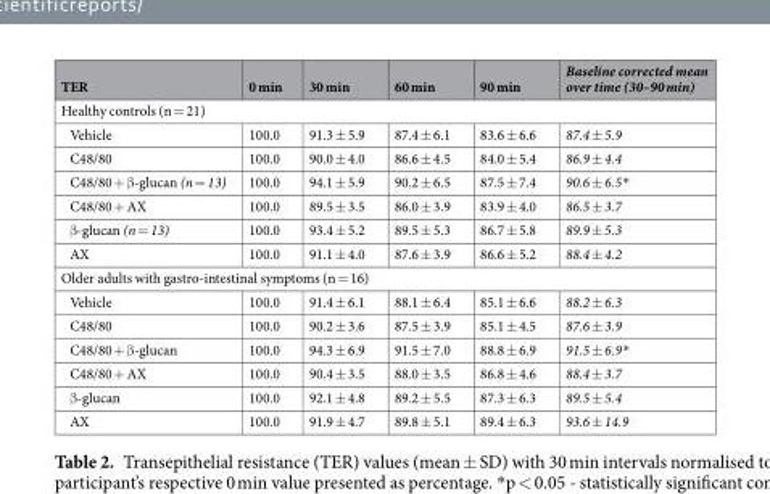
<table><thead><tr><td>TER</td><td>0 min</td><td>30 min</td><td>60 min</td><td>90 min</td><td>Baseline corrected mean over time (30–90 min)</td></tr></thead><tbody><tr><td colspan="6">Healthy controls (n = 21)</td></tr><tr><td>Vehicle</td><td>100.0</td><td>91.3 ± 5.9</td><td>87.4 ± 6.1</td><td>83.6 ± 6.6</td><td>87.4 ± 5.9</td></tr><tr><td>C48/80</td><td>100.0</td><td>90.0 ± 4.0</td><td>86.6 ± 4.5</td><td>84.0 ± 5.4</td><td>86.9 ± 4.4</td></tr><tr><td>C48/80 + β-glucan (n = 13)</td><td>100.0</td><td>94.1 ± 5.9</td><td>90.2 ± 6.5</td><td>87.5 ± 7.4</td><td>90.6 ± 6.5*</td></tr><tr><td>C48/80 + AX</td><td>100.0</td><td>89.5 ± 3.5</td><td>86.0 ± 3.9</td><td>83.9 ± 4.0</td><td>86.5 ± 3.7</td></tr><tr><td>β-glucan (n = 13)</td><td>100.0</td><td>93.4 ± 5.2</td><td>89.5 ± 5.3</td><td>86.7 ± 5.8</td><td>89.9 ± 5.3</td></tr><tr><td>AX</td><td>100.0</td><td>91.1 ± 4.0</td><td>87.6 ± 3.9</td><td>86.6 ± 5.2</td><td>88.4 ± 4.2</td></tr><tr><td colspan="6">Older adults with gastro-intestinal symptoms (n = 16)</td></tr><tr><td>Vehicle</td><td>100.0</td><td>91.4 ± 6.1</td><td>88.1 ± 6.4</td><td>85.1 ± 6.6</td><td>88.2 ± 6.3</td></tr><tr><td>C48/80</td><td>100.0</td><td>90.2 ± 3.6</td><td>87.5 ± 3.9</td><td>85.1 ± 4.5</td><td>87.6 ± 3.9</td></tr><tr><td>C48/80 + β-glucan</td><td>100.0</td><td>94.3 ± 6.9</td><td>91.5 ± 7.0</td><td>88.8 ± 6.9</td><td>91.5 ± 6.9*</td></tr><tr><td>C48/80 + AX</td><td>100.0</td><td>90.4 ± 3.5</td><td>88.0 ± 3.5</td><td>86.8 ± 4.6</td><td>88.4 ± 3.7</td></tr><tr><td>β-glucan</td><td>100.0</td><td>92.1 ± 4.8</td><td>89.2 ± 5.5</td><td>87.3 ± 6.3</td><td>89.5 ± 5.4</td></tr><tr><td>AX</td><td>100.0</td><td>91.9 ± 4.7</td><td>89.8 ± 5.1</td><td>89.4 ± 6.3</td><td>93.6 ± 14.9</td></tr></tbody></table>